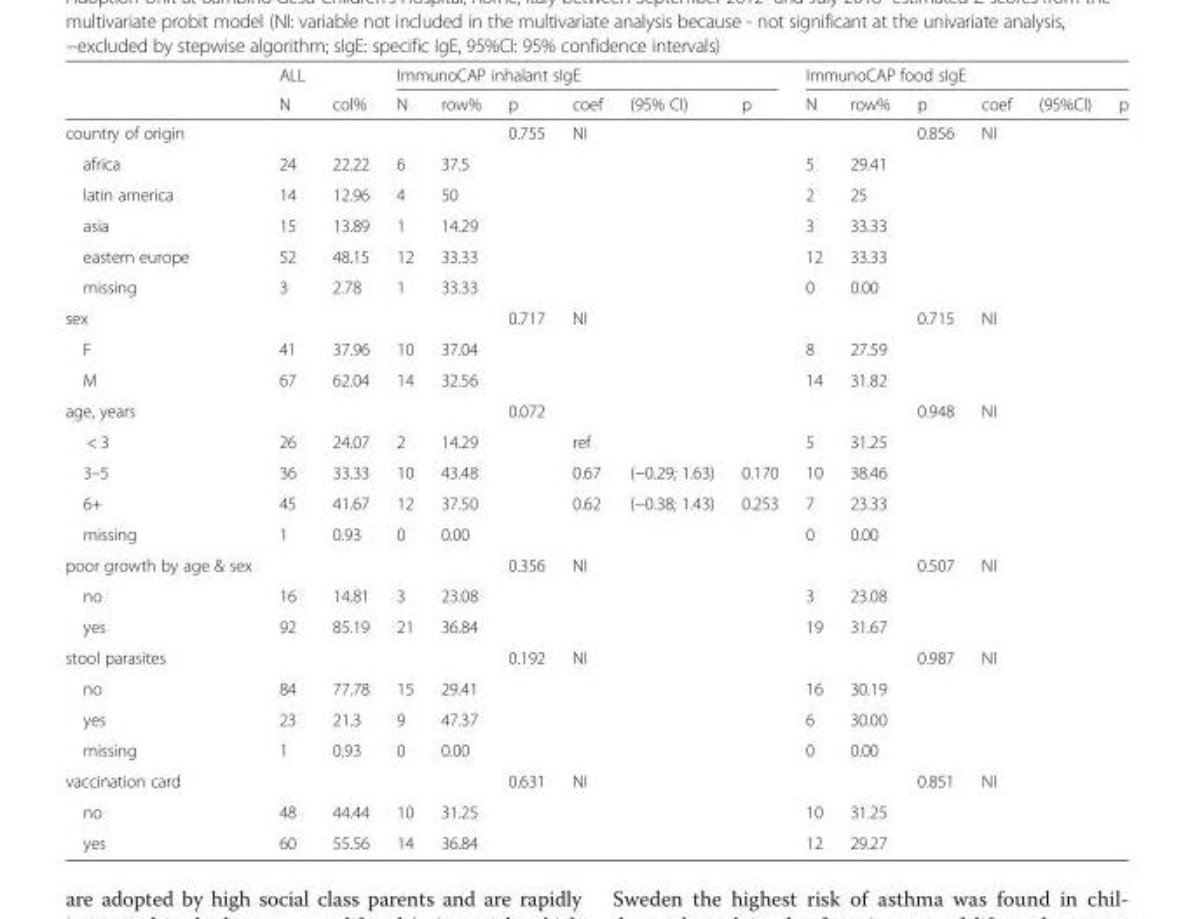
<table><thead><tr><td rowspan="2"></td><td rowspan="2">ALL N</td><td rowspan="2">col%</td><td colspan="6">ImmunoCAP inhalant sIgE</td><td colspan="6">ImmunoCAP food sIgE</td></tr><tr><td>N</td><td>row%</td><td>p</td><td>coef</td><td>(95% CI)</td><td>p</td><td>N</td><td>row%</td><td>p</td><td>coef</td><td>(95%CI)</td><td>p</td></tr></thead><tbody><tr><td>country of origin</td><td></td><td></td><td></td><td></td><td>0.755</td><td>NI</td><td></td><td></td><td></td><td></td><td>0.856</td><td>NI</td><td></td><td></td></tr><tr><td>africa</td><td>24</td><td>22.22</td><td>6</td><td>37.5</td><td></td><td></td><td></td><td></td><td>5</td><td>29.41</td><td></td><td></td><td></td><td></td></tr><tr><td>latin america</td><td>14</td><td>12.96</td><td>4</td><td>50</td><td></td><td></td><td></td><td></td><td>2</td><td>25</td><td></td><td></td><td></td><td></td></tr><tr><td>asia</td><td>15</td><td>13.89</td><td>1</td><td>14.29</td><td></td><td></td><td></td><td></td><td>3</td><td>33.33</td><td></td><td></td><td></td><td></td></tr><tr><td>eastern europe</td><td>52</td><td>48.15</td><td>12</td><td>33.33</td><td></td><td></td><td></td><td></td><td>12</td><td>33.33</td><td></td><td></td><td></td><td></td></tr><tr><td>missing</td><td>3</td><td>2.78</td><td>1</td><td>33.33</td><td></td><td></td><td></td><td></td><td>0</td><td>0.00</td><td></td><td></td><td></td><td></td></tr><tr><td>sex</td><td></td><td></td><td></td><td></td><td>0.717</td><td>NI</td><td></td><td></td><td></td><td></td><td>0.715</td><td>NI</td><td></td><td></td></tr><tr><td>F</td><td>41</td><td>37.96</td><td>10</td><td>37.04</td><td></td><td></td><td></td><td></td><td>8</td><td>27.59</td><td></td><td></td><td></td><td></td></tr><tr><td>M</td><td>67</td><td>62.04</td><td>14</td><td>32.56</td><td></td><td></td><td></td><td></td><td>14</td><td>31.82</td><td></td><td></td><td></td><td></td></tr><tr><td>age, years</td><td></td><td></td><td></td><td></td><td>0.072</td><td></td><td></td><td></td><td></td><td></td><td>0.948</td><td>NI</td><td></td><td></td></tr><tr><td>&lt; 3</td><td>26</td><td>24.07</td><td>2</td><td>14.29</td><td></td><td>ref</td><td></td><td></td><td>5</td><td>31.25</td><td></td><td></td><td></td><td></td></tr><tr><td>3–5</td><td>36</td><td>33.33</td><td>10</td><td>43.48</td><td></td><td>0.67</td><td>(−0.29; 1.63)</td><td>0.170</td><td>10</td><td>38.46</td><td></td><td></td><td></td><td></td></tr><tr><td>6+</td><td>45</td><td>41.67</td><td>12</td><td>37.50</td><td></td><td>0.62</td><td>(−0.38; 1.43)</td><td>0.253</td><td>7</td><td>23.33</td><td></td><td></td><td></td><td></td></tr><tr><td>missing</td><td>1</td><td>0.93</td><td>0</td><td>0.00</td><td></td><td></td><td></td><td></td><td>0</td><td>0.00</td><td></td><td></td><td></td><td></td></tr><tr><td>poor growth by age &amp; sex</td><td></td><td></td><td></td><td></td><td>0.356</td><td>NI</td><td></td><td></td><td></td><td></td><td>0.507</td><td>NI</td><td></td><td></td></tr><tr><td>no</td><td>16</td><td>14.81</td><td>3</td><td>23.08</td><td></td><td></td><td></td><td></td><td>3</td><td>23.08</td><td></td><td></td><td></td><td></td></tr><tr><td>yes</td><td>92</td><td>85.19</td><td>21</td><td>36.84</td><td></td><td></td><td></td><td></td><td>19</td><td>31.67</td><td></td><td></td><td></td><td></td></tr><tr><td>stool parasites</td><td></td><td></td><td></td><td></td><td>0.192</td><td>NI</td><td></td><td></td><td></td><td></td><td>0.987</td><td>NI</td><td></td><td></td></tr><tr><td>no</td><td>84</td><td>77.78</td><td>15</td><td>29.41</td><td></td><td></td><td></td><td></td><td>16</td><td>30.19</td><td></td><td></td><td></td><td></td></tr><tr><td>yes</td><td>23</td><td>21.3</td><td>9</td><td>47.37</td><td></td><td></td><td></td><td></td><td>6</td><td>30.00</td><td></td><td></td><td></td><td></td></tr><tr><td>missing</td><td>1</td><td>0.93</td><td>0</td><td>0.00</td><td></td><td></td><td></td><td></td><td>0</td><td>0.00</td><td></td><td></td><td></td><td></td></tr><tr><td>vaccination card</td><td></td><td></td><td></td><td></td><td>0.631</td><td>NI</td><td></td><td></td><td></td><td></td><td>0.851</td><td>NI</td><td></td><td></td></tr><tr><td>no</td><td>48</td><td>44.44</td><td>10</td><td>31.25</td><td></td><td></td><td></td><td></td><td>10</td><td>31.25</td><td></td><td></td><td></td><td></td></tr><tr><td>yes</td><td>60</td><td>55.56</td><td>14</td><td>36.84</td><td></td><td></td><td></td><td></td><td>12</td><td>29.27</td><td></td><td></td><td></td><td></td></tr></tbody></table>